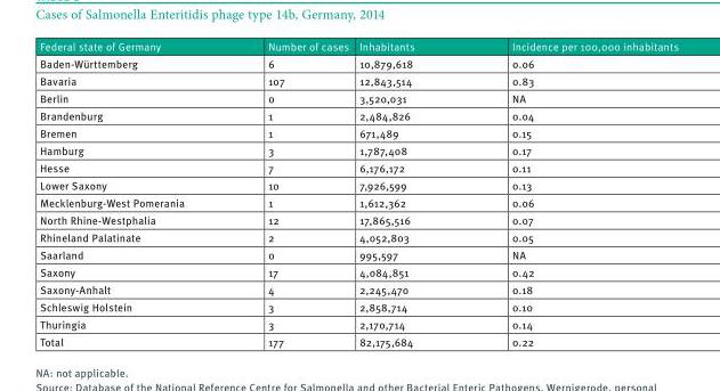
<table><thead><tr><td>Federal state of Germany</td><td>Number of cases</td><td>Inhabitants</td><td>Incidence per 100,000 inhabitants</td></tr></thead><tbody><tr><td>Baden-Württemberg</td><td>6</td><td>10,879,618</td><td>0.06</td></tr><tr><td>Bavaria</td><td>107</td><td>12,843,514</td><td>0.83</td></tr><tr><td>Berlin</td><td>0</td><td>3,520,031</td><td>NA</td></tr><tr><td>Brandenburg</td><td>1</td><td>2,484,826</td><td>0.04</td></tr><tr><td>Bremen</td><td>1</td><td>671,489</td><td>0.15</td></tr><tr><td>Hamburg</td><td>3</td><td>1,787,408</td><td>0.17</td></tr><tr><td>Hesse</td><td>7</td><td>6,176,172</td><td>0.11</td></tr><tr><td>Lower Saxony</td><td>10</td><td>7,926,599</td><td>0.13</td></tr><tr><td>Mecklenburg-West Pomerania</td><td>1</td><td>1,612,362</td><td>0.06</td></tr><tr><td>North Rhine-Westphalia</td><td>12</td><td>17,865,516</td><td>0.07</td></tr><tr><td>Rhineland Palatinate</td><td>2</td><td>4,052,803</td><td>0.05</td></tr><tr><td>Saarland</td><td>0</td><td>995,597</td><td>NA</td></tr><tr><td>Saxony</td><td>17</td><td>4,084,851</td><td>0.42</td></tr><tr><td>Saxony-Anhalt</td><td>4</td><td>2,245,470</td><td>0.18</td></tr><tr><td>Schleswig Holstein</td><td>3</td><td>2,858,714</td><td>0.10</td></tr><tr><td>Thuringia</td><td>3</td><td>2,170,714</td><td>0.14</td></tr><tr><td>Total</td><td>177</td><td>82,175,684</td><td>0.22</td></tr></tbody></table>